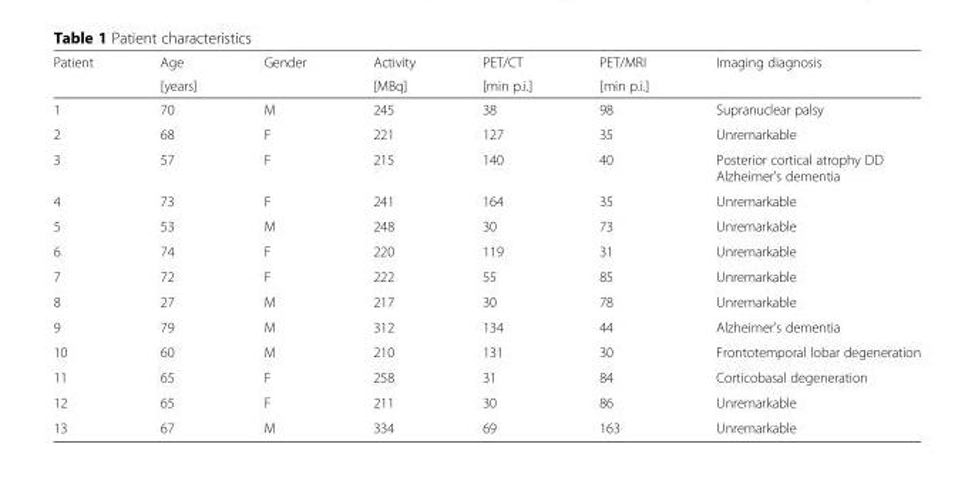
<table><thead><tr><td rowspan="2">Patient</td><td rowspan="2">Age [years]</td><td rowspan="2">Gender</td><td rowspan="2">Activity [MBq]</td><td rowspan="2">PET/CT [min p.i.]</td><td rowspan="2">PET/MRI [min p.i.]</td><td rowspan="2">Imaging diagnosis</td></tr><tr></tr></thead><tbody><tr><td>1</td><td>70</td><td>M</td><td>245</td><td>38</td><td>98</td><td>Supranuclear palsy</td></tr><tr><td>2</td><td>68</td><td>F</td><td>221</td><td>127</td><td>35</td><td>Unremarkable</td></tr><tr><td>3</td><td>57</td><td>F</td><td>215</td><td>140</td><td>40</td><td>Posterior cortical atrophy DD Alzheimer’s dementia</td></tr><tr><td>4</td><td>73</td><td>F</td><td>241</td><td>164</td><td>35</td><td>Unremarkable</td></tr><tr><td>5</td><td>53</td><td>M</td><td>248</td><td>30</td><td>73</td><td>Unremarkable</td></tr><tr><td>6</td><td>74</td><td>F</td><td>220</td><td>119</td><td>31</td><td>Unremarkable</td></tr><tr><td>7</td><td>72</td><td>F</td><td>222</td><td>55</td><td>85</td><td>Unremarkable</td></tr><tr><td>8</td><td>27</td><td>M</td><td>217</td><td>30</td><td>78</td><td>Unremarkable</td></tr><tr><td>9</td><td>79</td><td>M</td><td>312</td><td>134</td><td>44</td><td>Alzheimer’s dementia</td></tr><tr><td>10</td><td>60</td><td>M</td><td>210</td><td>131</td><td>30</td><td>Frontotemporal lobar degeneration</td></tr><tr><td>11</td><td>65</td><td>F</td><td>258</td><td>31</td><td>84</td><td>Corticobasal degeneration</td></tr><tr><td>12</td><td>65</td><td>F</td><td>211</td><td>30</td><td>86</td><td>Unremarkable</td></tr><tr><td>13</td><td>67</td><td>M</td><td>334</td><td>69</td><td>163</td><td>Unremarkable</td></tr></tbody></table>